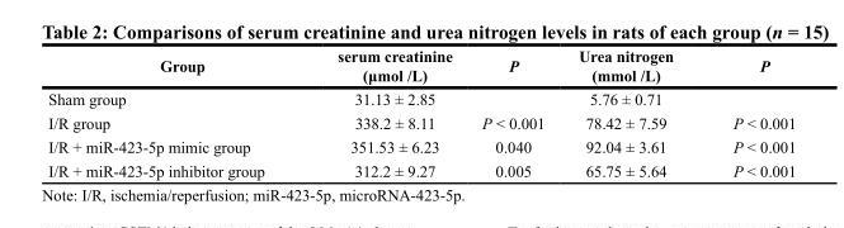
<table><thead><tr><td>Group</td><td>serum creatinine (μmol /L)</td><td>P</td><td>Urea nitrogen (mmol /L)</td><td>P</td></tr></thead><tbody><tr><td>Sham group</td><td>31.13 ± 2.85</td><td></td><td>5.76 ± 0.71</td><td></td></tr><tr><td>I/R group</td><td>338.2 ± 8.11</td><td>P &lt; 0.001</td><td>78.42 ± 7.59</td><td>P &lt; 0.001</td></tr><tr><td>I/R + miR-423-5p mimic group</td><td>351.53 ± 6.23</td><td>0.040</td><td>92.04 ± 3.61</td><td>P &lt; 0.001</td></tr><tr><td>I/R + miR-423-5p inhibitor group</td><td>312.2 ± 9.27</td><td>0.005</td><td>65.75 ± 5.64</td><td>P &lt; 0.001</td></tr></tbody></table>